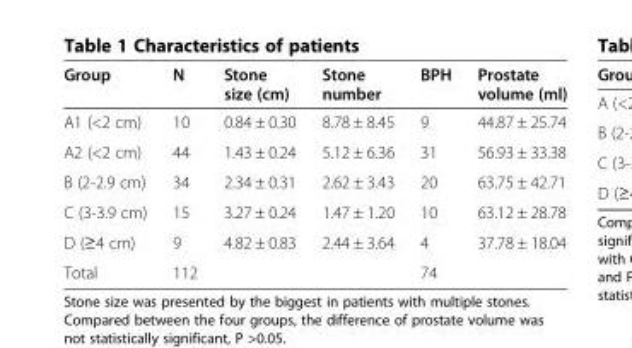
<table><thead><tr><td>Group</td><td>N</td><td>Stone size (cm)</td><td>Stone number</td><td>BPH</td><td>Prostate volume (ml)</td></tr></thead><tbody><tr><td>A1 (&lt;2 cm)</td><td>10</td><td>0.84 ± 0.30</td><td>8.78 ± 8.45</td><td>9</td><td>44.87 ± 25.74</td></tr><tr><td>A2 (&lt;2 cm)</td><td>44</td><td>1.43 ± 0.24</td><td>5.12 ± 6.36</td><td>31</td><td>56.93 ± 33.38</td></tr><tr><td>B (2-2.9 cm)</td><td>34</td><td>2.34 ± 0.31</td><td>2.62 ± 3.43</td><td>20</td><td>63.75 ± 42.71</td></tr><tr><td>C (3-3.9 cm)</td><td>15</td><td>3.27 ± 0.24</td><td>1.47 ± 1.20</td><td>10</td><td>63.12 ± 28.78</td></tr><tr><td>D (≥4 cm)</td><td>9</td><td>4.82 ± 0.83</td><td>2.44 ± 3.64</td><td>4</td><td>37.78 ± 18.04</td></tr><tr><td>Total</td><td>112</td><td></td><td></td><td>74</td><td></td></tr></tbody></table>